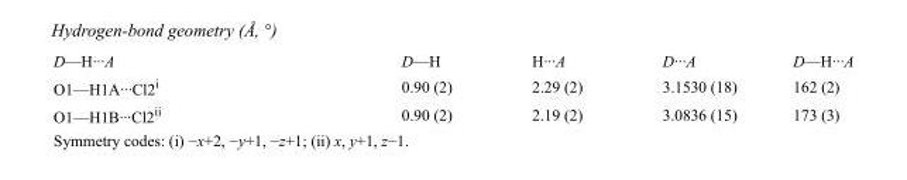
<table><tbody><tr><td>D—H···A</td><td>D—H</td><td>H···A</td><td>D···A</td><td>D—H···A</td></tr><tr><td>O1—H1A···Cl2<sup>i</sup></td><td>0.90 (2)</td><td>2.29 (2)</td><td>3.1530 (18)</td><td>162 (2)</td></tr><tr><td>O1—H1B···Cl2<sup>ii</sup></td><td>0.90 (2)</td><td>2.19 (2)</td><td>3.0836 (15)</td><td>173 (3)</td></tr></tbody></table>